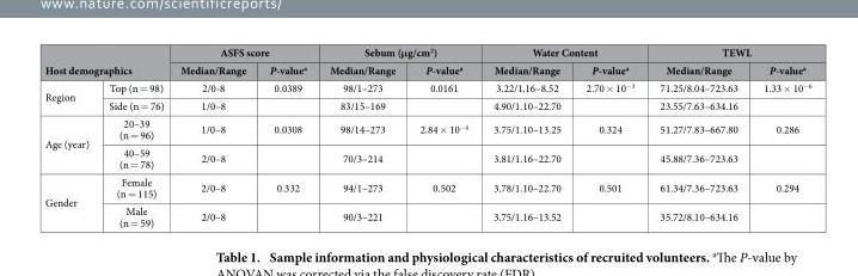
<table><thead><tr><td></td><td></td><td colspan="2">ASFS score</td><td colspan="2">Sebum (μg/cm<sup>2</sup>)</td><td colspan="2">Water Content</td><td colspan="2">TEWL</td></tr><tr><td colspan="2">Host demographics</td><td>Median/Range</td><td>P-value<sup>a</sup></td><td>Median/Range</td><td>P-value<sup>a</sup></td><td>Median/Range</td><td>P-value<sup>a</sup></td><td>Median/Range</td><td>P-value<sup>a</sup></td></tr></thead><tbody><tr><td rowspan="2">Region</td><td>Top (n = 98)</td><td>2/0-8</td><td>0.0389</td><td>98/1–273</td><td>0.0161</td><td>3.22/1.16–8.52</td><td>2.70 × 10<sup>−3</sup></td><td>71.25/8.04–723.63</td><td>1.33 × 10<sup>−6</sup></td></tr><tr><td>Side (n = 76)</td><td>1/0–8</td><td></td><td>83/15–169</td><td></td><td>4.90/1.10–22.70</td><td></td><td>23.55/7.63–634.16</td><td></td></tr><tr><td rowspan="2">Age (year)</td><td>20–39 (n = 96)</td><td>1/0–8</td><td>0.0308</td><td>98/14–273</td><td>2.84 × 10<sup>−4</sup></td><td>3.75/1.10–13.25</td><td>0.324</td><td>51.27/7.83–667.80</td><td>0.286</td></tr><tr><td>40–59 (n = 78)</td><td>2/0–8</td><td></td><td>70/3–214</td><td></td><td>3.81/1.16–22.70</td><td></td><td>45.88/7.36–723.63</td><td></td></tr><tr><td rowspan="2">Gender</td><td>Female (n = 115)</td><td>2/0–8</td><td>0.332</td><td>94/1–273</td><td>0.502</td><td>3.78/1.10–22.70</td><td>0.501</td><td>61.34/7.36–723.63</td><td>0.294</td></tr><tr><td>Male (n = 59)</td><td>2/0–8</td><td></td><td>90/3–221</td><td></td><td>3.75/1.16–13.52</td><td></td><td>35.72/8.10–634.16</td><td></td></tr></tbody></table>